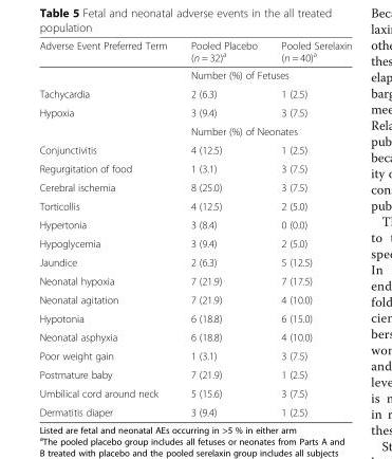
<table><thead><tr><td>Adverse Event Preferred Term</td><td>Pooled Placebo (n = 32)<sup>a</sup></td><td>Pooled Serelaxin (n = 40)<sup>a</sup></td></tr></thead><tbody><tr><td></td><td colspan="2">Number (%) of Fetuses</td></tr><tr><td>Tachycardia</td><td>2 (6.3)</td><td>1 (2.5)</td></tr><tr><td rowspan="2">Hypoxia</td><td>3 (9.4)</td><td>3 (7.5)</td></tr><tr><td colspan="2">Number (%) of Neonates</td></tr><tr><td>Conjunctivitis</td><td>4 (12.5)</td><td>1 (2.5)</td></tr><tr><td>Regurgitation of food</td><td>1 (3.1)</td><td>3 (7.5)</td></tr><tr><td>Cerebral ischemia</td><td>8 (25.0)</td><td>3 (7.5)</td></tr><tr><td>Torticollis</td><td>4 (12.5)</td><td>2 (5.0)</td></tr><tr><td>Hypertonia</td><td>3 (8.4)</td><td>0 (0.0)</td></tr><tr><td>Hypoglycemia</td><td>3 (9.4)</td><td>2 (5.0)</td></tr><tr><td>Jaundice</td><td>2 (6.3)</td><td>5 (12.5)</td></tr><tr><td>Neonatal hypoxia</td><td>7 (21.9)</td><td>7 (17.5)</td></tr><tr><td>Neonatal agitation</td><td>7 (21.9)</td><td>4 (10.0)</td></tr><tr><td>Hypotonia</td><td>6 (18.8)</td><td>6 (15.0)</td></tr><tr><td>Neonatal asphyxia</td><td>6 (18.8)</td><td>4 (10.0)</td></tr><tr><td>Poor weight gain</td><td>1 (3.1)</td><td>3 (7.5)</td></tr><tr><td>Postmature baby</td><td>7 (21.9)</td><td>1 (2.5)</td></tr><tr><td>Umbilical cord around neck</td><td>5 (15.6)</td><td>3 (7.5)</td></tr><tr><td>Dermatitis diaper</td><td>3 (9.4)</td><td>1 (2.5)</td></tr></tbody></table>